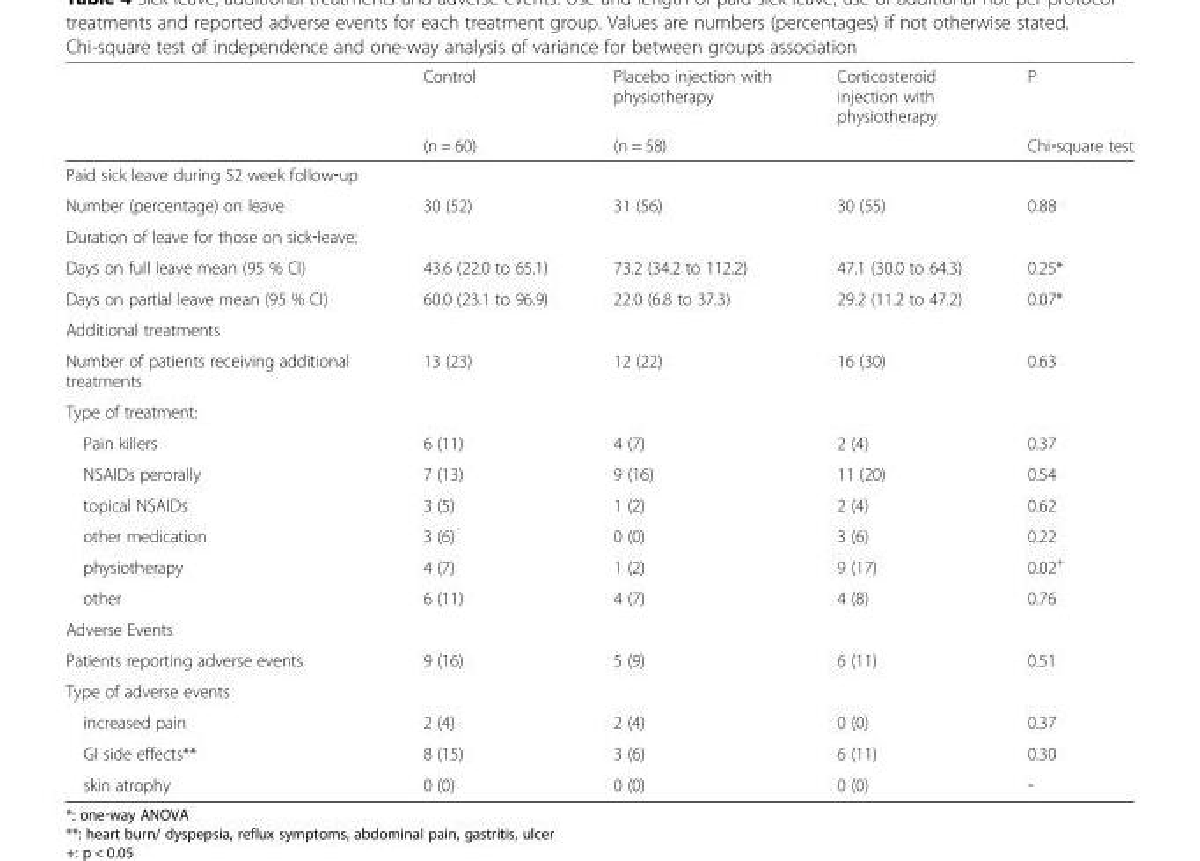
<table><thead><tr><td rowspan="2"></td><td rowspan="2">Control (n = 60)</td><td rowspan="2">Placebo injection with physiotherapy (n = 58)</td><td rowspan="2">Corticosteroid injection with physiotherapy</td><td rowspan="2">P Chi‐square test</td></tr><tr></tr></thead><tbody><tr><td colspan="5">Paid sick leave during 52 week follow‐up</td></tr><tr><td>Number (percentage) on leave</td><td>30 (52)</td><td>31 (56)</td><td>30 (55)</td><td>0.88</td></tr><tr><td colspan="5">Duration of leave for those on sick‐leave:</td></tr><tr><td>Days on full leave mean (95 % CI)</td><td>43.6 (22.0 to 65.1)</td><td>73.2 (34.2 to 112.2)</td><td>47.1 (30.0 to 64.3)</td><td>0.25*</td></tr><tr><td>Days on partial leave mean (95 % CI)</td><td>60.0 (23.1 to 96.9)</td><td>22.0 (6.8 to 37.3)</td><td>29.2 (11.2 to 47.2)</td><td>0.07*</td></tr><tr><td colspan="5">Additional treatments</td></tr><tr><td>Number of patients receiving additional treatments</td><td>13 (23)</td><td>12 (22)</td><td>16 (30)</td><td>0.63</td></tr><tr><td colspan="5">Type of treatment:</td></tr><tr><td>Pain killers</td><td>6 (11)</td><td>4 (7)</td><td>2 (4)</td><td>0.37</td></tr><tr><td>NSAIDs perorally</td><td>7 (13)</td><td>9 (16)</td><td>11 (20)</td><td>0.54</td></tr><tr><td>topical NSAIDs</td><td>3 (5)</td><td>1 (2)</td><td>2 (4)</td><td>0.62</td></tr><tr><td>other medication</td><td>3 (6)</td><td>0 (0)</td><td>3 (6)</td><td>0.22</td></tr><tr><td>physiotherapy</td><td>4 (7)</td><td>1 (2)</td><td>9 (17)</td><td>0.02<sup>+</sup></td></tr><tr><td>other</td><td>6 (11)</td><td>4 (7)</td><td>4 (8)</td><td>0.76</td></tr><tr><td colspan="5">Adverse Events</td></tr><tr><td>Patients reporting adverse events</td><td>9 (16)</td><td>5 (9)</td><td>6 (11)</td><td>0.51</td></tr><tr><td colspan="5">Type of adverse events</td></tr><tr><td>increased pain</td><td>2 (4)</td><td>2 (4)</td><td>0 (0)</td><td>0.37</td></tr><tr><td>GI side effects**</td><td>8 (15)</td><td>3 (6)</td><td>6 (11)</td><td>0.30</td></tr><tr><td>skin atrophy</td><td>0 (0)</td><td>0 (0)</td><td>0 (0)</td><td>‐</td></tr></tbody></table>